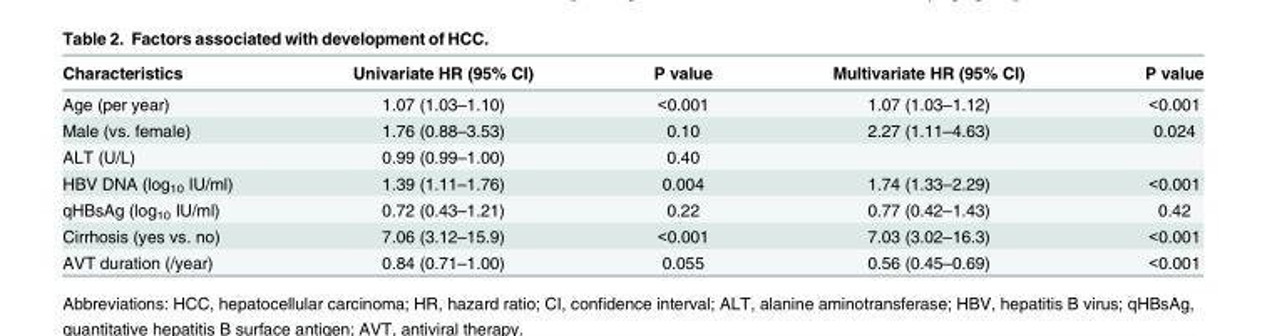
<table><thead><tr><td>Characteristics</td><td>Univariate HR (95% CI)</td><td>P value</td><td>Multivariate HR (95% CI)</td><td>P value</td></tr></thead><tbody><tr><td>Age (per year)</td><td>1.07 (1.03–1.10)</td><td>&lt;0.001</td><td>1.07 (1.03–1.12)</td><td>&lt;0.001</td></tr><tr><td>Male (vs. female)</td><td>1.76 (0.88–3.53)</td><td>0.10</td><td>2.27 (1.11–4.63)</td><td>0.024</td></tr><tr><td>ALT (U/L)</td><td>0.99 (0.99–1.00)</td><td>0.40</td><td></td><td></td></tr><tr><td>HBV DNA (log<sub>10</sub> IU/ml)</td><td>1.39 (1.11–1.76)</td><td>0.004</td><td>1.74 (1.33–2.29)</td><td>&lt;0.001</td></tr><tr><td>qHBsAg (log<sub>10</sub> IU/ml)</td><td>0.72 (0.43–1.21)</td><td>0.22</td><td>0.77 (0.42–1.43)</td><td>0.42</td></tr><tr><td>Cirrhosis (yes vs. no)</td><td>7.06 (3.12–15.9)</td><td>&lt;0.001</td><td>7.03 (3.02–16.3)</td><td>&lt;0.001</td></tr><tr><td>AVT duration (/year)</td><td>0.84 (0.71–1.00)</td><td>0.055</td><td>0.56 (0.45–0.69)</td><td>&lt;0.001</td></tr></tbody></table>